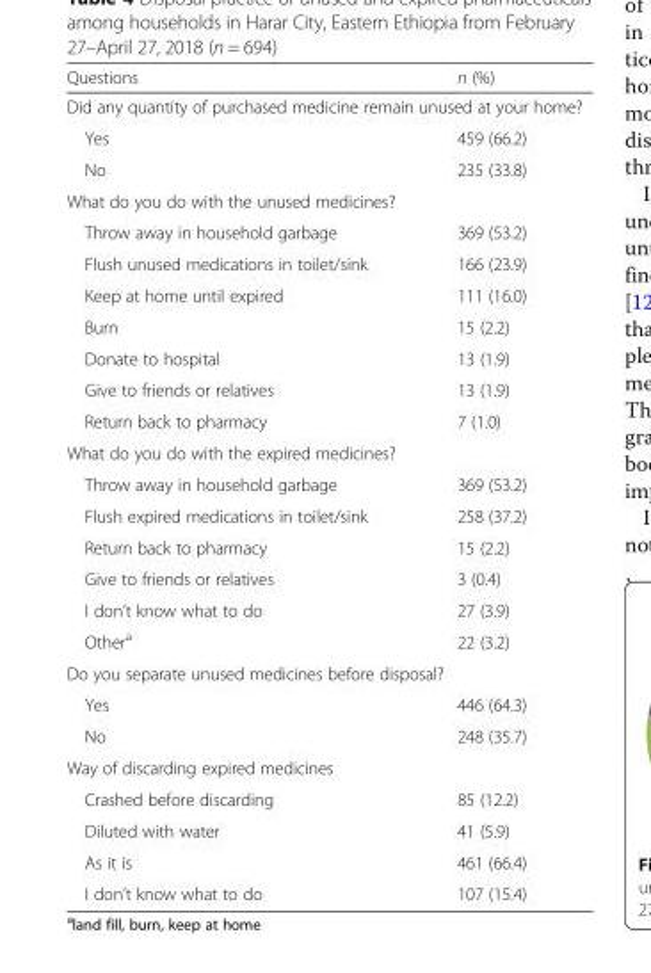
<table><thead><tr><td>Questions</td><td>n (%)</td></tr></thead><tbody><tr><td colspan="2">Did any quantity of purchased medicine remain unused at your home?</td></tr><tr><td>Yes</td><td>459 (66.2)</td></tr><tr><td>No</td><td>235 (33.8)</td></tr><tr><td colspan="2">What do you do with the unused medicines?</td></tr><tr><td>Throw away in household garbage</td><td>369 (53.2)</td></tr><tr><td>Flush unused medications in toilet/sink</td><td>166 (23.9)</td></tr><tr><td>Keep at home until expired</td><td>111 (16.0)</td></tr><tr><td>Burn</td><td>15 (2.2)</td></tr><tr><td>Donate to hospital</td><td>13 (1.9)</td></tr><tr><td>Give to friends or relatives</td><td>13 (1.9)</td></tr><tr><td>Return back to pharmacy</td><td>7 (1.0)</td></tr><tr><td colspan="2">What do you do with the expired medicines?</td></tr><tr><td>Throw away in household garbage</td><td>369 (53.2)</td></tr><tr><td>Flush expired medications in toilet/sink</td><td>258 (37.2)</td></tr><tr><td>Return back to pharmacy</td><td>15 (2.2)</td></tr><tr><td>Give to friends or relatives</td><td>3 (0.4)</td></tr><tr><td>I don’t know what to do</td><td>27 (3.9)</td></tr><tr><td>Other<sup>a</sup></td><td>22 (3.2)</td></tr><tr><td colspan="2">Do you separate unused medicines before disposal?</td></tr><tr><td>Yes</td><td>446 (64.3)</td></tr><tr><td>No</td><td>248 (35.7)</td></tr><tr><td colspan="2">Way of discarding expired medicines</td></tr><tr><td>Crashed before discarding</td><td>85 (12.2)</td></tr><tr><td>Diluted with water</td><td>41 (5.9)</td></tr><tr><td>As it is</td><td>461 (66.4)</td></tr><tr><td>I don’t know what to do</td><td>107 (15.4)</td></tr></tbody></table>